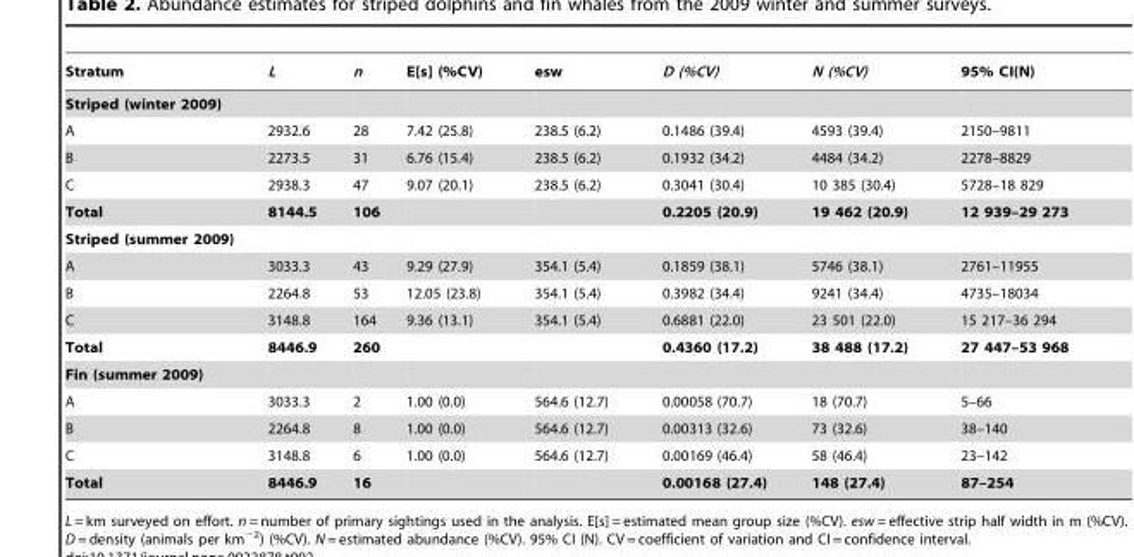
<table><thead><tr><td>Stratum</td><td>L</td><td>n</td><td>E[s] (%CV)</td><td>esw</td><td>D (%CV)</td><td>N (%CV)</td><td>95% CI(N)</td></tr></thead><tbody><tr><td colspan="8">Striped (winter 2009)</td></tr><tr><td>A</td><td>2932.6</td><td>28</td><td>7.42 (25.8)</td><td>238.5 (6.2)</td><td>0.1486 (39.4)</td><td>4593 (39.4)</td><td>2150–9811</td></tr><tr><td>B</td><td>2273.5</td><td>31</td><td>6.76 (15.4)</td><td>238.5 (6.2)</td><td>0.1932 (34.2)</td><td>4484 (34.2)</td><td>2278–8829</td></tr><tr><td>C</td><td>2938.3</td><td>47</td><td>9.07 (20.1)</td><td>238.5 (6.2)</td><td>0.3041 (30.4)</td><td>10 385 (30.4)</td><td>5728–18 829</td></tr><tr><td>Total</td><td>8144.5</td><td>106</td><td></td><td></td><td>0.2205 (20.9)</td><td>19 462 (20.9)</td><td>12 939–29 273</td></tr><tr><td colspan="8">Striped (summer 2009)</td></tr><tr><td>A</td><td>3033.3</td><td>43</td><td>9.29 (27.9)</td><td>354.1 (5.4)</td><td>0.1859 (38.1)</td><td>5746 (38.1)</td><td>2761–11955</td></tr><tr><td>B</td><td>2264.8</td><td>53</td><td>12.05 (23.8)</td><td>354.1 (5.4)</td><td>0.3982 (34.4)</td><td>9241 (34.4)</td><td>4735–18034</td></tr><tr><td>C</td><td>3148.8</td><td>164</td><td>9.36 (13.1)</td><td>354.1 (5.4)</td><td>0.6881 (22.0)</td><td>23 501 (22.0)</td><td>15 217–36 294</td></tr><tr><td>Total</td><td>8446.9</td><td>260</td><td></td><td></td><td>0.4360 (17.2)</td><td>38 488 (17.2)</td><td>27 447–53 968</td></tr><tr><td colspan="8">Fin (summer 2009)</td></tr><tr><td>A</td><td>3033.3</td><td>2</td><td>1.00 (0.0)</td><td>564.6 (12.7)</td><td>0.00058 (70.7)</td><td>18 (70.7)</td><td>5–66</td></tr><tr><td>B</td><td>2264.8</td><td>8</td><td>1.00 (0.0)</td><td>564.6 (12.7)</td><td>0.00313 (32.6)</td><td>73 (32.6)</td><td>38–140</td></tr><tr><td>C</td><td>3148.8</td><td>6</td><td>1.00 (0.0)</td><td>564.6 (12.7)</td><td>0.00169 (46.4)</td><td>58 (46.4)</td><td>23–142</td></tr><tr><td>Total</td><td>8446.9</td><td>16</td><td></td><td></td><td>0.00168 (27.4)</td><td>148 (27.4)</td><td>87–254</td></tr></tbody></table>